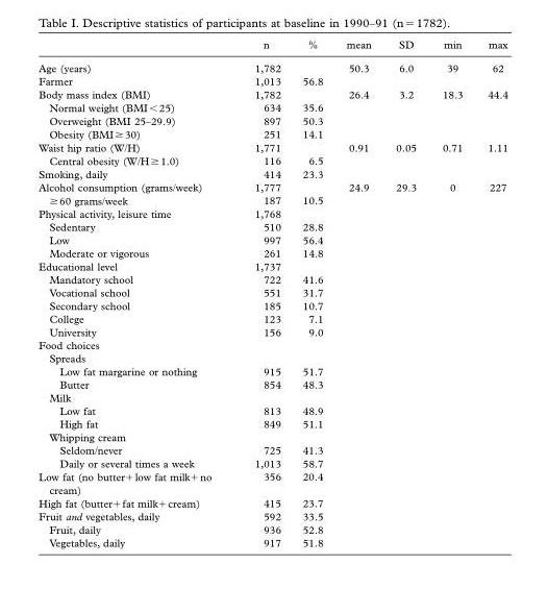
<table><thead><tr><td></td><td>n</td><td>%</td><td>mean</td><td>SD</td><td>min</td><td>max</td></tr></thead><tbody><tr><td>Age (years)</td><td>1,782</td><td></td><td>50.3</td><td>6.0</td><td>39</td><td>62</td></tr><tr><td>Farmer</td><td>1,013</td><td>56.8</td><td></td><td></td><td></td><td></td></tr><tr><td>Body mass index (BMI)</td><td>1,782</td><td></td><td>26.4</td><td>3.2</td><td>18.3</td><td>44.4</td></tr><tr><td>Normal weight (BMI &lt; 25)</td><td>634</td><td>35.6</td><td></td><td></td><td></td><td></td></tr><tr><td>Overweight (BMI 25 – 29.9)</td><td>897</td><td>50.3</td><td></td><td></td><td></td><td></td></tr><tr><td>Obesity (BMI ≥ 30)</td><td>251</td><td>14.1</td><td></td><td></td><td></td><td></td></tr><tr><td>Waist hip ratio (W/H)</td><td>1,771</td><td></td><td>0.91</td><td>0.05</td><td>0.71</td><td>1.11</td></tr><tr><td>Central obesity (W/H ≥ 1.0)</td><td>116</td><td>6.5</td><td></td><td></td><td></td><td></td></tr><tr><td>Smoking, daily</td><td>414</td><td>23.3</td><td></td><td></td><td></td><td></td></tr><tr><td>Alcohol consumption (grams/week)</td><td>1,777</td><td></td><td>24.9</td><td>29.3</td><td>0</td><td>227</td></tr><tr><td>≥ 60 grams/week</td><td>187</td><td>10.5</td><td></td><td></td><td></td><td></td></tr><tr><td>Physical activity, leisure time</td><td>1,768</td><td></td><td></td><td></td><td></td><td></td></tr><tr><td>Sedentary</td><td>510</td><td>28.8</td><td></td><td></td><td></td><td></td></tr><tr><td>Low</td><td>997</td><td>56.4</td><td></td><td></td><td></td><td></td></tr><tr><td>Moderate or vigorous</td><td>261</td><td>14.8</td><td></td><td></td><td></td><td></td></tr><tr><td>Educational level</td><td>1,737</td><td></td><td></td><td></td><td></td><td></td></tr><tr><td>Mandatory school</td><td>722</td><td>41.6</td><td></td><td></td><td></td><td></td></tr><tr><td>Vocational school</td><td>551</td><td>31.7</td><td></td><td></td><td></td><td></td></tr><tr><td>Secondary school</td><td>185</td><td>10.7</td><td></td><td></td><td></td><td></td></tr><tr><td>College</td><td>123</td><td>7.1</td><td></td><td></td><td></td><td></td></tr><tr><td>University</td><td>156</td><td>9.0</td><td></td><td></td><td></td><td></td></tr><tr><td colspan="7">Food choices</td></tr><tr><td colspan="7">Spreads</td></tr><tr><td>Low fat margarine or nothing</td><td>915</td><td>51.7</td><td></td><td></td><td></td><td></td></tr><tr><td>Butter</td><td>854</td><td>48.3</td><td></td><td></td><td></td><td></td></tr><tr><td colspan="7">Milk</td></tr><tr><td>Low fat</td><td>813</td><td>48.9</td><td></td><td></td><td></td><td></td></tr><tr><td>High fat</td><td>849</td><td>51.1</td><td></td><td></td><td></td><td></td></tr><tr><td colspan="7">Whipping cream</td></tr><tr><td>Seldom/never</td><td>725</td><td>41.3</td><td></td><td></td><td></td><td></td></tr><tr><td>Daily or several times a week</td><td>1,013</td><td>58.7</td><td></td><td></td><td></td><td></td></tr><tr><td>Low fat (no butter + low fat milk + no cream)</td><td>356</td><td>20.4</td><td></td><td></td><td></td><td></td></tr><tr><td>High fat (butter + fat milk + cream)</td><td>415</td><td>23.7</td><td></td><td></td><td></td><td></td></tr><tr><td>Fruit and vegetables, daily</td><td>592</td><td>33.5</td><td></td><td></td><td></td><td></td></tr><tr><td>Fruit, daily</td><td>936</td><td>52.8</td><td></td><td></td><td></td><td></td></tr><tr><td>Vegetables, daily</td><td>917</td><td>51.8</td><td></td><td></td><td></td><td></td></tr></tbody></table>